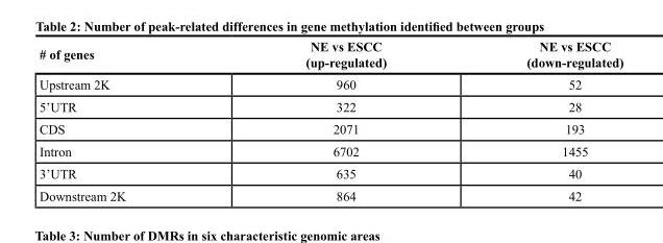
<table><thead><tr><td># of genes</td><td>NE vs ESCC (up-regulated)</td><td>NE vs ESCC (down-regulated)</td></tr></thead><tbody><tr><td>Upstream 2K</td><td>960</td><td>52</td></tr><tr><td>5’UTR</td><td>322</td><td>28</td></tr><tr><td>CDS</td><td>2071</td><td>193</td></tr><tr><td>Intron</td><td>6702</td><td>1455</td></tr><tr><td>3’UTR</td><td>635</td><td>40</td></tr><tr><td>Downstream 2K</td><td>864</td><td>42</td></tr></tbody></table>